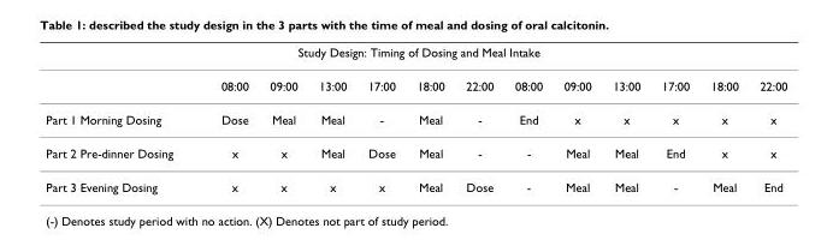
<table><thead><tr><td colspan="13">Study Design: Timing of Dosing and Meal Intake</td></tr><tr><td></td><td>08:00</td><td>09:00</td><td>13:00</td><td>17:00</td><td>18:00</td><td>22:00</td><td>08:00</td><td>09:00</td><td>13:00</td><td>17:00</td><td>18:00</td><td>22:00</td></tr></thead><tbody><tr><td>Part 1 Morning Dosing</td><td>Dose</td><td>Meal</td><td>Meal</td><td>-</td><td>Meal</td><td>-</td><td>End</td><td>x</td><td>x</td><td>x</td><td>x</td><td>x</td></tr><tr><td>Part 2 Pre-dinner Dosing</td><td>x</td><td>x</td><td>Meal</td><td>Dose</td><td>Meal</td><td>-</td><td>-</td><td>Meal</td><td>Meal</td><td>End</td><td>x</td><td>x</td></tr><tr><td>Part 3 Evening Dosing</td><td>x</td><td>x</td><td>x</td><td>x</td><td>Meal</td><td>Dose</td><td>-</td><td>Meal</td><td>Meal</td><td>-</td><td>Meal</td><td>End</td></tr></tbody></table>